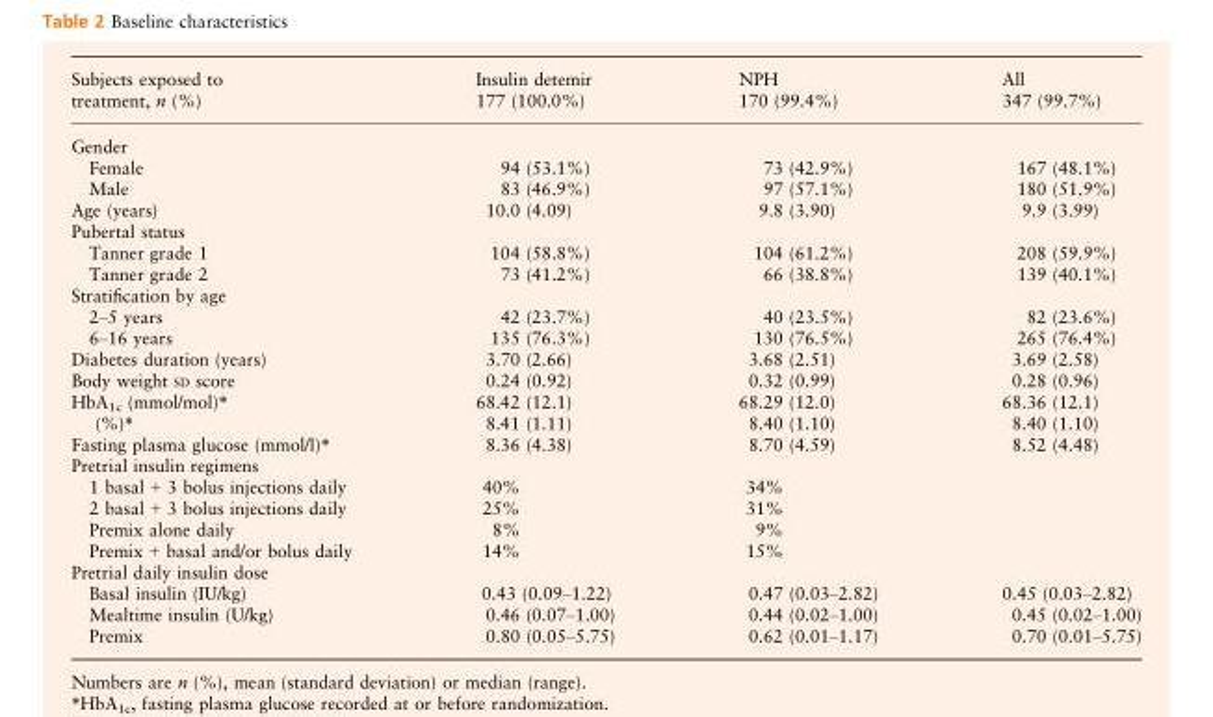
<table><thead><tr><td>Subjects exposed to treatment, n (%)</td><td>Insulin detemir 177 (100.0%)</td><td>NPH 170 (99.4%)</td><td>All 347 (99.7%)</td></tr></thead><tbody><tr><td colspan="4">Gender</td></tr><tr><td>Female</td><td>94 (53.1%)</td><td>73 (42.9%)</td><td>167 (48.1%)</td></tr><tr><td>Male</td><td>83 (46.9%)</td><td>97 (57.1%)</td><td>180 (51.9%)</td></tr><tr><td>Age (years)</td><td>10.0 (4.09)</td><td>9.8 (3.90)</td><td>9.9 (3.99)</td></tr><tr><td colspan="4">Pubertal status</td></tr><tr><td>Tanner grade 1</td><td>104 (58.8%)</td><td>104 (61.2%)</td><td>208 (59.9%)</td></tr><tr><td>Tanner grade 2</td><td>73 (41.2%)</td><td>66 (38.8%)</td><td>139 (40.1%)</td></tr><tr><td colspan="4">Stratification by age</td></tr><tr><td>2–5 years</td><td>42 (23.7%)</td><td>40 (23.5%)</td><td>82 (23.6%)</td></tr><tr><td>6–16 years</td><td>135 (76.3%)</td><td>130 (76.5%)</td><td>265 (76.4%)</td></tr><tr><td>Diabetes duration (years)</td><td>3.70 (2.66)</td><td>3.68 (2.51)</td><td>3.69 (2.58)</td></tr><tr><td>Body weight SD score</td><td>0.24 (0.92)</td><td>0.32 (0.99)</td><td>0.28 (0.96)</td></tr><tr><td>HbA<sub>1c</sub> (mmol/mol)*</td><td>68.42 (12.1)</td><td>68.29 (12.0)</td><td>68.36 (12.1)</td></tr><tr><td>(%)*</td><td>8.41 (1.11)</td><td>8.40 (1.10)</td><td>8.40 (1.10)</td></tr><tr><td>Fasting plasma glucose (mmol/l)*</td><td>8.36 (4.38)</td><td>8.70 (4.59)</td><td>8.52 (4.48)</td></tr><tr><td colspan="4">Pretrial insulin regimens</td></tr><tr><td>1 basal + 3 bolus injections daily</td><td>40%</td><td>34%</td><td></td></tr><tr><td>2 basal + 3 bolus injections daily</td><td>25%</td><td>31%</td><td></td></tr><tr><td>Premix alone daily</td><td>8%</td><td>9%</td><td></td></tr><tr><td>Premix + basal and/or bolus daily</td><td>14%</td><td>15%</td><td></td></tr><tr><td colspan="4">Pretrial daily insulin dose</td></tr><tr><td>Basal insulin (IU/kg)</td><td>0.43 (0.09–1.22)</td><td>0.47 (0.03–2.82)</td><td>0.45 (0.03–2.82)</td></tr><tr><td>Mealtime insulin (U/kg)</td><td>0.46 (0.07–1.00)</td><td>0.44 (0.02–1.00)</td><td>0.45 (0.02–1.00)</td></tr><tr><td>Premix</td><td>0.80 (0.05–5.75)</td><td>0.62 (0.01–1.17)</td><td>0.70 (0.01–5.75)</td></tr></tbody></table>